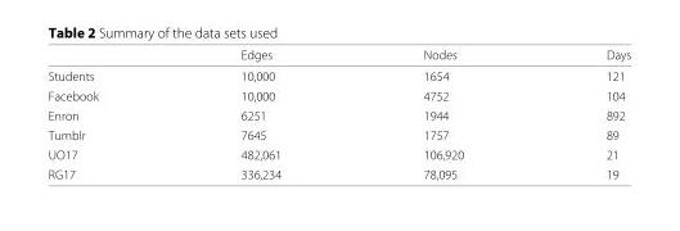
<table><thead><tr><td></td><td>Edges</td><td>Nodes</td><td>Days</td></tr></thead><tbody><tr><td>Students</td><td>10,000</td><td>1654</td><td>121</td></tr><tr><td>Facebook</td><td>10,000</td><td>4752</td><td>104</td></tr><tr><td>Enron</td><td>6251</td><td>1944</td><td>892</td></tr><tr><td>Tumblr</td><td>7645</td><td>1757</td><td>89</td></tr><tr><td>UO17</td><td>482,061</td><td>106,920</td><td>21</td></tr><tr><td>RG17</td><td>336,234</td><td>78,095</td><td>19</td></tr></tbody></table>